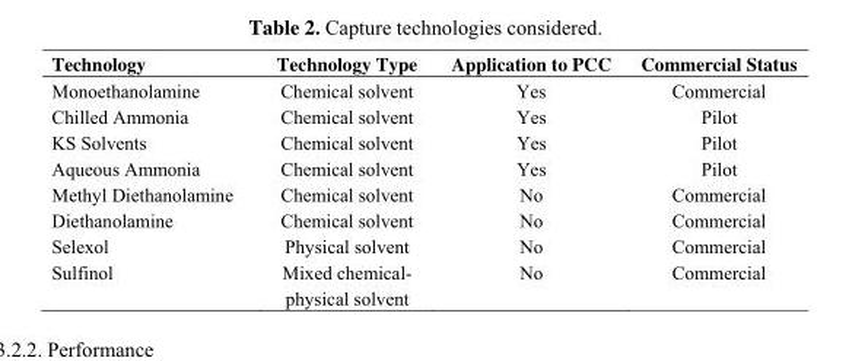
<table><thead><tr><td>Technology</td><td>Technology Type</td><td>Application to PCC</td><td>Commercial Status</td></tr></thead><tbody><tr><td>Monoethanolamine</td><td>Chemical solvent</td><td>Yes</td><td>Commercial</td></tr><tr><td>Chilled Ammonia</td><td>Chemical solvent</td><td>Yes</td><td>Pilot</td></tr><tr><td>KS Solvents</td><td>Chemical solvent</td><td>Yes</td><td>Pilot</td></tr><tr><td>Aqueous Ammonia</td><td>Chemical solvent</td><td>Yes</td><td>Pilot</td></tr><tr><td>Methyl Diethanolamine</td><td>Chemical solvent</td><td>No</td><td>Commercial</td></tr><tr><td>Diethanolamine</td><td>Chemical solvent</td><td>No</td><td>Commercial</td></tr><tr><td>Selexol</td><td>Physical solvent</td><td>No</td><td>Commercial</td></tr><tr><td>Sulfinol</td><td>Mixed chemical- physical solvent</td><td>No</td><td>Commercial</td></tr></tbody></table>